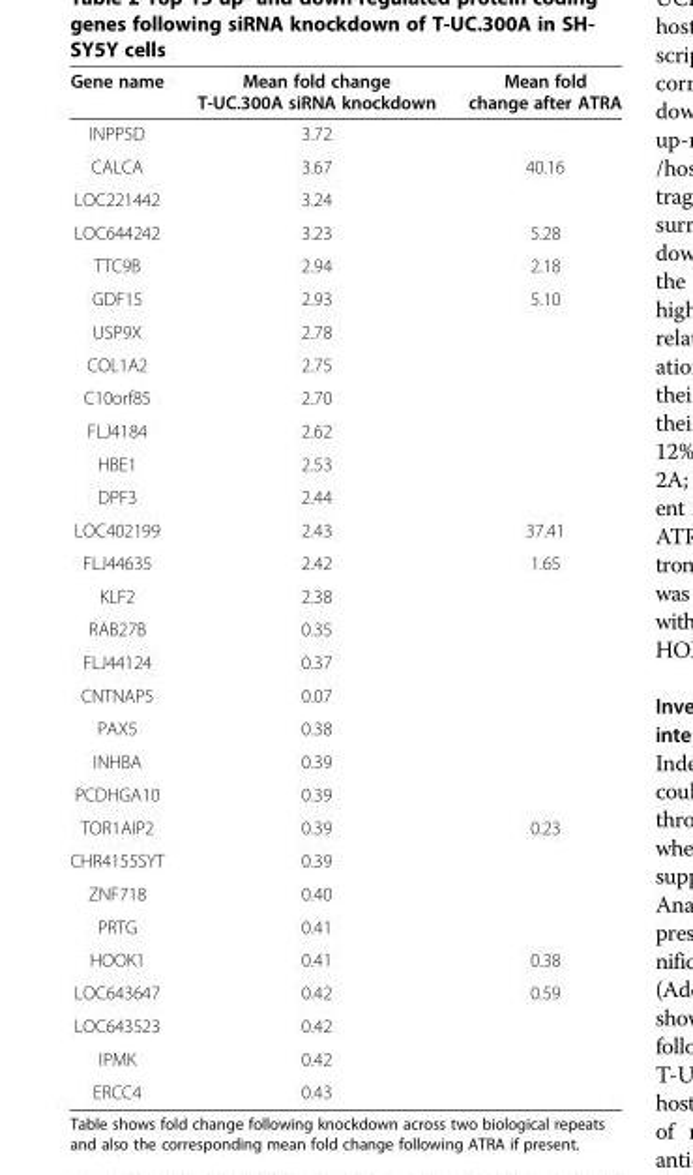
<table><thead><tr><td>Gene name</td><td>Mean fold change T-UC.300A siRNA knockdown</td><td>Mean fold change after ATRA</td></tr></thead><tbody><tr><td>INPP5D</td><td>3.72</td><td></td></tr><tr><td>CALCA</td><td>3.67</td><td>40.16</td></tr><tr><td>LOC221442</td><td>3.24</td><td></td></tr><tr><td>LOC644242</td><td>3.23</td><td>5.28</td></tr><tr><td>TTC9B</td><td>2.94</td><td>2.18</td></tr><tr><td>GDF15</td><td>2.93</td><td>5.10</td></tr><tr><td>USP9X</td><td>2.78</td><td></td></tr><tr><td>COL1A2</td><td>2.75</td><td></td></tr><tr><td>C10orf85</td><td>2.70</td><td></td></tr><tr><td>FLJ4184</td><td>2.62</td><td></td></tr><tr><td>HBE1</td><td>2.53</td><td></td></tr><tr><td>DPF3</td><td>2.44</td><td></td></tr><tr><td>LOC402199</td><td>2.43</td><td>37.41</td></tr><tr><td>FLJ44635</td><td>2.42</td><td>1.65</td></tr><tr><td>KLF2</td><td>2.38</td><td></td></tr><tr><td>RAB27B</td><td>0.35</td><td></td></tr><tr><td>FLJ44124</td><td>0.37</td><td></td></tr><tr><td>CNTNAP5</td><td>0.07</td><td></td></tr><tr><td>PAX5</td><td>0.38</td><td></td></tr><tr><td>INHBA</td><td>0.39</td><td></td></tr><tr><td>PCDHGA10</td><td>0.39</td><td></td></tr><tr><td>TOR1AIP2</td><td>0.39</td><td>0.23</td></tr><tr><td>CHR4155SYT</td><td>0.39</td><td></td></tr><tr><td>ZNF718</td><td>0.40</td><td></td></tr><tr><td>PRTG</td><td>0.41</td><td></td></tr><tr><td>HOOK1</td><td>0.41</td><td>0.38</td></tr><tr><td>LOC643647</td><td>0.42</td><td>0.59</td></tr><tr><td>LOC643523</td><td>0.42</td><td></td></tr><tr><td>IPMK</td><td>0.42</td><td></td></tr><tr><td>ERCC4</td><td>0.43</td><td></td></tr></tbody></table>